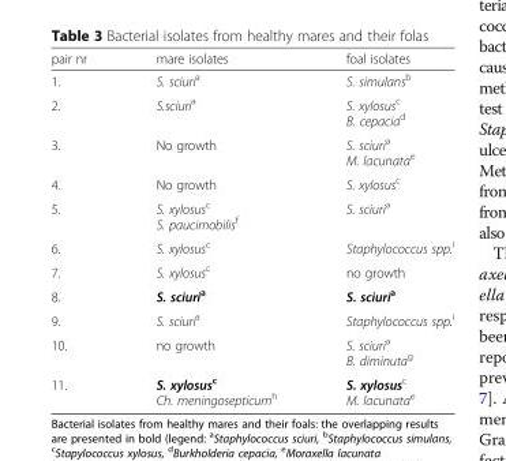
<table><thead><tr><td>pair nr</td><td>mare isolates</td><td>foal isolates</td></tr></thead><tbody><tr><td>1.</td><td>S. sciuri<sup>a</sup></td><td>S. simulans<sup>b</sup></td></tr><tr><td>2.</td><td>S.sciuri<sup>a</sup></td><td>S. xylosus<sup>c</sup> B. cepacia<sup>d</sup></td></tr><tr><td>3.</td><td>No growth</td><td>S. sciuri<sup>a</sup> M. lacunata<sup>e</sup></td></tr><tr><td>4.</td><td>No growth</td><td>S. xylosus<sup>c</sup></td></tr><tr><td>5.</td><td>S. xylosus<sup>c</sup> S. paucimobilis<sup>f</sup></td><td>S. sciuri<sup>a</sup></td></tr><tr><td>6.</td><td>S. xylosus<sup>c</sup></td><td>Staphylococcus spp.<sup>i</sup></td></tr><tr><td>7.</td><td>S. xylosus<sup>c</sup></td><td>no growth</td></tr><tr><td>8.</td><td>S. sciuri<sup>a</sup></td><td>S. sciuri<sup>a</sup></td></tr><tr><td>9.</td><td>S. sciuri<sup>a</sup></td><td>Staphylococcus spp.<sup>i</sup></td></tr><tr><td>10.</td><td>no growth</td><td>S. sciuri<sup>a</sup> B. diminuta<sup>g</sup></td></tr><tr><td>11.</td><td>S. xylosus<sup>c</sup> Ch. meningosepticum<sup>h</sup></td><td>S. xylosus<sup>c</sup> M. lacunata<sup>e</sup></td></tr></tbody></table>